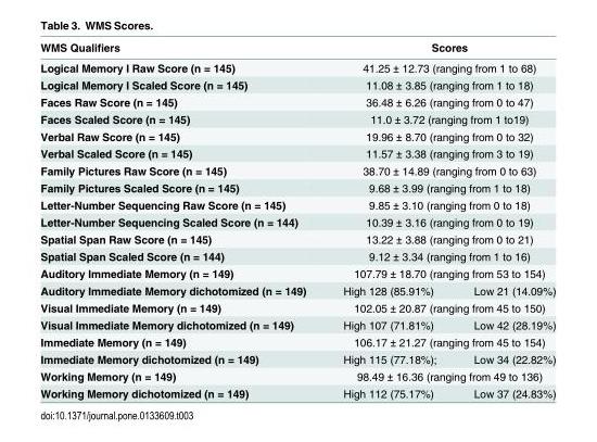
<table><thead><tr><td>WMS Qualifiers</td><td colspan="2">Scores</td></tr></thead><tbody><tr><td>Logical Memory I Raw Score (n = 145)</td><td colspan="2">41.25 ± 12.73 (ranging from 1 to 68)</td></tr><tr><td>Logical Memory I Scaled Score (n = 145)</td><td colspan="2">11.08 ± 3.85 (ranging from 1 to 18)</td></tr><tr><td>Faces Raw Score (n = 145)</td><td colspan="2">36.48 ± 6.26 (ranging from 0 to 47)</td></tr><tr><td>Faces Scaled Score (n = 145)</td><td colspan="2">11.0 ± 3.72 (ranging from 1 to19)</td></tr><tr><td>Verbal Raw Score (n = 145)</td><td colspan="2">19.96 ± 8.70 (ranging from 0 to 32)</td></tr><tr><td>Verbal Scaled Score (n = 145)</td><td colspan="2">11.57 ± 3.38 (ranging from 3 to 19)</td></tr><tr><td>Family Pictures Raw Score (n = 145)</td><td colspan="2">38.70 ± 14.89 (ranging from 0 to 63)</td></tr><tr><td>Family Pictures Scaled Score (n = 145)</td><td colspan="2">9.68 ± 3.99 (ranging from 1 to 18)</td></tr><tr><td>Letter-Number Sequencing Raw Score (n = 145)</td><td colspan="2">9.85 ± 3.10 (ranging from 0 to 18)</td></tr><tr><td>Letter-Number Sequencing Scaled Score (n = 144)</td><td colspan="2">10.39 ± 3.16 (ranging from 0 to 19)</td></tr><tr><td>Spatial Span Raw Score (n = 145)</td><td colspan="2">13.22 ± 3.88 (ranging from 0 to 21)</td></tr><tr><td>Spatial Span Scaled Score (n = 144)</td><td colspan="2">9.12 ± 3.34 (ranging from 1 to 16)</td></tr><tr><td>Auditory Immediate Memory (n = 149)</td><td colspan="2">107.79 ± 18.70 (ranging from 53 to 154)</td></tr><tr><td>Auditory Immediate Memory dichotomized (n = 149)</td><td>High 128 (85.91%)</td><td>Low 21 (14.09%)</td></tr><tr><td>Visual Immediate Memory (n = 149)</td><td colspan="2">102.05 ± 20.87 (ranging from 45 to 150)</td></tr><tr><td>Visual Immediate Memory dichotomized (n = 149)</td><td>High 107 (71.81%)</td><td>Low 42 (28.19%)</td></tr><tr><td>Immediate Memory (n = 149)</td><td colspan="2">106.17 ± 21.27 (ranging from 45 to 154)</td></tr><tr><td>Immediate Memory dichotomized (n = 149)</td><td>High 115 (77.18%);</td><td>Low 34 (22.82%)</td></tr><tr><td>Working Memory (n = 149)</td><td colspan="2">98.49 ± 16.36 (ranging from 49 to 136)</td></tr><tr><td>Working Memory dichotomized (n = 149)</td><td>High 112 (75.17%)</td><td>Low 37 (24.83%)</td></tr></tbody></table>